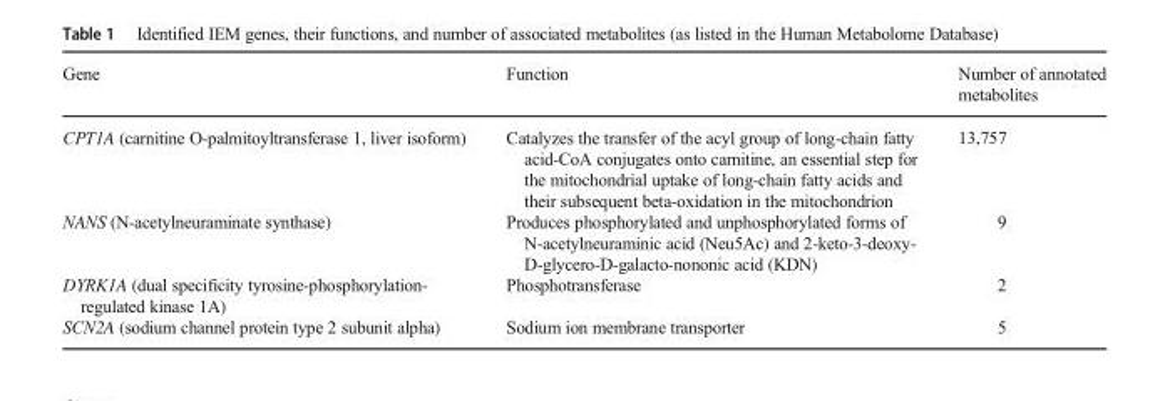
<table><thead><tr><td>Gene</td><td>Function</td><td>Number of annotated metabolites</td></tr></thead><tbody><tr><td>CPT1A (carnitine O-palmitoyltransferase 1, liver isoform)</td><td>Catalyzes the transfer of the acyl group of long-chain fatty acid-CoA conjugates onto carnitine, an essential step for the mitochondrial uptake of long-chain fatty acids and their subsequent beta-oxidation in the mitochondrion</td><td>13,757</td></tr><tr><td>NANS (N-acetylneuraminate synthase)</td><td>Produces phosphorylated and unphosphorylated forms of N-acetylneuraminic acid (Neu5Ac) and 2-keto-3-deoxy- D-glycero-D-galacto-nononic acid (KDN)</td><td>9</td></tr><tr><td>DYRK1A (dual specificity tyrosine-phosphorylation- regulated kinase 1A)</td><td>Phosphotransferase</td><td>2</td></tr><tr><td>SCN2A (sodium channel protein type 2 subunit alpha)</td><td>Sodium ion membrane transporter</td><td>5</td></tr></tbody></table>